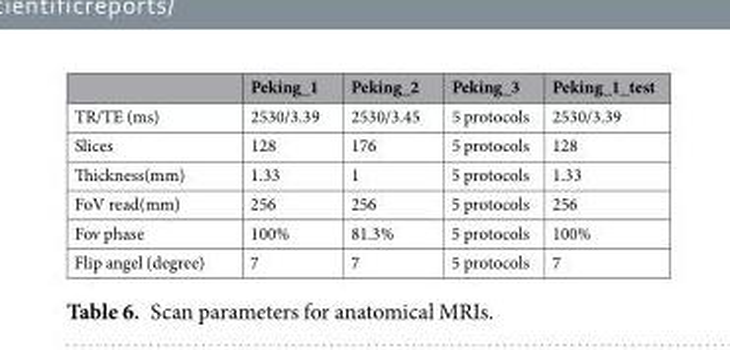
<table><thead><tr><td></td><td>Peking_1</td><td>Peking_2</td><td>Peking_3</td><td>Peking_1_test</td></tr></thead><tbody><tr><td>TR/TE (ms)</td><td>2530/3.39</td><td>2530/3.45</td><td>5 protocols</td><td>2530/3.39</td></tr><tr><td>Slices</td><td>128</td><td>176</td><td>5 protocols</td><td>128</td></tr><tr><td>Thickness(mm)</td><td>1.33</td><td>1</td><td>5 protocols</td><td>1.33</td></tr><tr><td>FoV read(mm)</td><td>256</td><td>256</td><td>5 protocols</td><td>256</td></tr><tr><td>Fov phase</td><td>100%</td><td>81.3%</td><td>5 protocols</td><td>100%</td></tr><tr><td>Flip angel (degree)</td><td>7</td><td>7</td><td>5 protocols</td><td>7</td></tr></tbody></table>